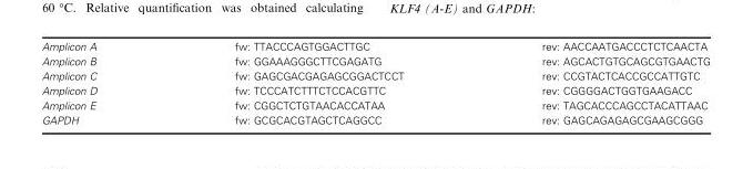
<table><tbody><tr><td>Amplicon A</td><td>fw: TTACCCAGTGGACTTGC</td><td>rev: AACCAATGACCCTCTCAACTA</td></tr><tr><td>Amplicon B</td><td>fw: GGAAAGGGCTTCGAGATG</td><td>rev: AGCACTGTGCAGCGTGAACTG</td></tr><tr><td>Amplicon C</td><td>fw: GAGCGACGAGAGCGGACTCCT</td><td>rev: CCGTACTCACCGCCATTGTC</td></tr><tr><td>Amplicon D</td><td>fw: TCCCATCTTTCTCCACGTTC</td><td>rev: CGGGGACTGGTGAAGACC</td></tr><tr><td>Amplicon E</td><td>fw: CGGCTCTGTAACACCATAA</td><td>rev: TAGCACCCAGCCTACATTAAC</td></tr><tr><td>GAPDH</td><td>fw: GCGCACGTAGCTCAGGCC</td><td>rev: GAGCAGAGAGCGAAGCGGG</td></tr></tbody></table>